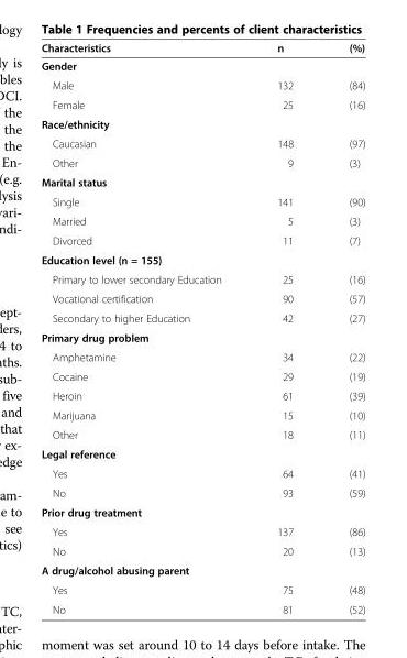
<table><thead><tr><td>Characteristics</td><td>n</td><td>(%)</td></tr></thead><tbody><tr><td colspan="3">Gender</td></tr><tr><td>Male</td><td>132</td><td>(84)</td></tr><tr><td>Female</td><td>25</td><td>(16)</td></tr><tr><td colspan="3">Race/ethnicity</td></tr><tr><td>Caucasian</td><td>148</td><td>(97)</td></tr><tr><td>Other</td><td>9</td><td>(3)</td></tr><tr><td colspan="3">Marital status</td></tr><tr><td>Single</td><td>141</td><td>(90)</td></tr><tr><td>Married</td><td>5</td><td>(3)</td></tr><tr><td>Divorced</td><td>11</td><td>(7)</td></tr><tr><td colspan="3">Education level (n = 155)</td></tr><tr><td>Primary to lower secondary Education</td><td>25</td><td>(16)</td></tr><tr><td>Vocational certification</td><td>90</td><td>(57)</td></tr><tr><td>Secondary to higher Education</td><td>42</td><td>(27)</td></tr><tr><td colspan="3">Primary drug problem</td></tr><tr><td>Amphetamine</td><td>34</td><td>(22)</td></tr><tr><td>Cocaine</td><td>29</td><td>(19)</td></tr><tr><td>Heroin</td><td>61</td><td>(39)</td></tr><tr><td>Marijuana</td><td>15</td><td>(10)</td></tr><tr><td>Other</td><td>18</td><td>(11)</td></tr><tr><td colspan="3">Legal reference</td></tr><tr><td>Yes</td><td>64</td><td>(41)</td></tr><tr><td>No</td><td>93</td><td>(59)</td></tr><tr><td colspan="3">Prior drug treatment</td></tr><tr><td>Yes</td><td>137</td><td>(86)</td></tr><tr><td>No</td><td>20</td><td>(13)</td></tr><tr><td colspan="3">A drug/alcohol abusing parent</td></tr><tr><td>Yes</td><td>75</td><td>(48)</td></tr><tr><td>No</td><td>81</td><td>(52)</td></tr></tbody></table>